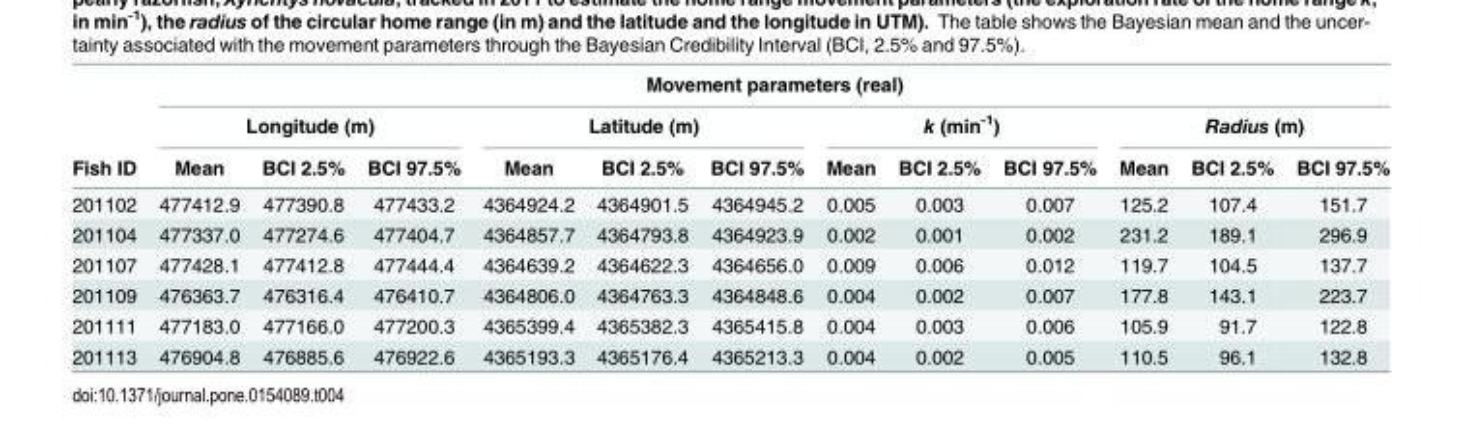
<table><thead><tr><td rowspan="3">Fish ID</td><td colspan="12">Movement parameters (real)</td></tr><tr><td colspan="3">Longitude (m)</td><td colspan="3">Latitude (m)</td><td colspan="3">k (min<sup>-1</sup>)</td><td colspan="3">Radius (m)</td></tr><tr><td>Mean</td><td>BCI 2.5%</td><td>BCI 97.5%</td><td>Mean</td><td>BCI 2.5%</td><td>BCI 97.5%</td><td>Mean</td><td>BCI 2.5%</td><td>BCI 97.5%</td><td>Mean</td><td>BCI 2.5%</td><td>BCI 97.5%</td></tr></thead><tbody><tr><td>201102</td><td>477412.9</td><td>477390.8</td><td>477433.2</td><td>4364924.2</td><td>4364901.5</td><td>4364945.2</td><td>0.005</td><td>0.003</td><td>0.007</td><td>125.2</td><td>107.4</td><td>151.7</td></tr><tr><td>201104</td><td>477337.0</td><td>477274.6</td><td>477404.7</td><td>4364857.7</td><td>4364793.8</td><td>4364923.9</td><td>0.002</td><td>0.001</td><td>0.002</td><td>231.2</td><td>189.1</td><td>296.9</td></tr><tr><td>201107</td><td>477428.1</td><td>477412.8</td><td>477444.4</td><td>4364639.2</td><td>4364622.3</td><td>4364656.0</td><td>0.009</td><td>0.006</td><td>0.012</td><td>119.7</td><td>104.5</td><td>137.7</td></tr><tr><td>201109</td><td>476363.7</td><td>476316.4</td><td>476410.7</td><td>4364806.0</td><td>4364763.3</td><td>4364848.6</td><td>0.004</td><td>0.002</td><td>0.007</td><td>177.8</td><td>143.1</td><td>223.7</td></tr><tr><td>201111</td><td>477183.0</td><td>477166.0</td><td>477200.3</td><td>4365399.4</td><td>4365382.3</td><td>4365415.8</td><td>0.004</td><td>0.003</td><td>0.006</td><td>105.9</td><td>91.7</td><td>122.8</td></tr><tr><td>201113</td><td>476904.8</td><td>476885.6</td><td>476922.6</td><td>4365193.3</td><td>4365176.4</td><td>4365213.3</td><td>0.004</td><td>0.002</td><td>0.005</td><td>110.5</td><td>96.1</td><td>132.8</td></tr></tbody></table>